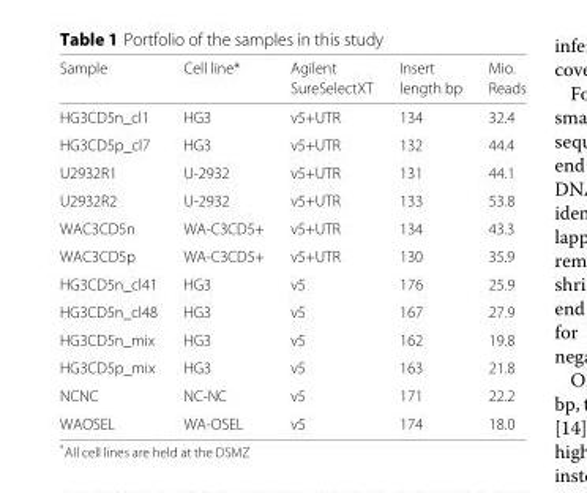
<table><thead><tr><td rowspan="2">Sample</td><td rowspan="2">Cell line*</td><td rowspan="2">Agilent SureSelectXT</td><td rowspan="2">Insert length bp</td><td rowspan="2">Mio. Reads</td></tr><tr></tr></thead><tbody><tr><td>HG3CD5n_cl1</td><td>HG3</td><td>v5+UTR</td><td>134</td><td>32.4</td></tr><tr><td>HG3CD5p_cl7</td><td>HG3</td><td>v5+UTR</td><td>132</td><td>44.4</td></tr><tr><td>U2932R1</td><td>U-2932</td><td>v5+UTR</td><td>131</td><td>44.1</td></tr><tr><td>U2932R2</td><td>U-2932</td><td>v5+UTR</td><td>133</td><td>53.8</td></tr><tr><td>WAC3CD5n</td><td>WA-C3CD5+</td><td>v5+UTR</td><td>134</td><td>43.3</td></tr><tr><td>WAC3CD5p</td><td>WA-C3CD5+</td><td>v5+UTR</td><td>130</td><td>35.9</td></tr><tr><td>HG3CD5n_cl41</td><td>HG3</td><td>v5</td><td>176</td><td>25.9</td></tr><tr><td>HG3CD5n_cl48</td><td>HG3</td><td>v5</td><td>167</td><td>27.9</td></tr><tr><td>HG3CD5n_mix</td><td>HG3</td><td>v5</td><td>162</td><td>19.8</td></tr><tr><td>HG3CD5p_mix</td><td>HG3</td><td>v5</td><td>163</td><td>21.8</td></tr><tr><td>NCNC</td><td>NC-NC</td><td>v5</td><td>171</td><td>22.2</td></tr><tr><td>WAOSEL</td><td>WA-OSEL</td><td>v5</td><td>174</td><td>18.0</td></tr></tbody></table>